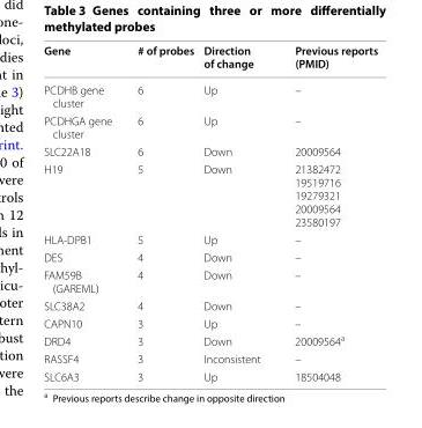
<table><thead><tr><td>Gene</td><td># of probes</td><td>Direction of change</td><td>Previous reports (PMID)</td></tr></thead><tbody><tr><td>PCDHB gene cluster</td><td>6</td><td>Up</td><td>–</td></tr><tr><td>PCDHGA gene cluster</td><td>6</td><td>Up</td><td>–</td></tr><tr><td>SLC22A18</td><td>6</td><td>Down</td><td>20009564</td></tr><tr><td>H19</td><td>5</td><td>Down</td><td>21382472 19519716 19279321 20009564 23580197</td></tr><tr><td>HLA‑DPB1</td><td>5</td><td>Up</td><td>–</td></tr><tr><td>DES</td><td>4</td><td>Down</td><td>–</td></tr><tr><td>FAM59B (GAREML)</td><td>4</td><td>Down</td><td>–</td></tr><tr><td>SLC38A2</td><td>4</td><td>Down</td><td>–</td></tr><tr><td>CAPN10</td><td>3</td><td>Up</td><td>–</td></tr><tr><td>DRD4</td><td>3</td><td>Down</td><td>20009564<sup>a</sup></td></tr><tr><td>RASSF4</td><td>3</td><td>Inconsistent</td><td>–</td></tr><tr><td>SLC6A3</td><td>3</td><td>Up</td><td>18504048</td></tr></tbody></table>